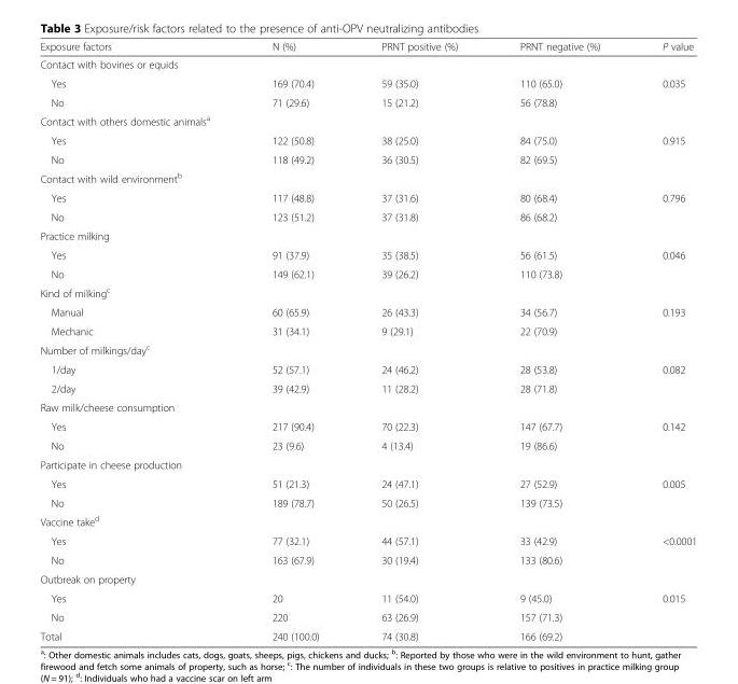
<table><thead><tr><td>Exposure factors</td><td>N (%)</td><td>PRNT positive (%)</td><td>PRNT negative (%)</td><td>P value</td></tr></thead><tbody><tr><td colspan="5">Contact with bovines or equids</td></tr><tr><td>Yes</td><td>169 (70.4)</td><td>59 (35.0)</td><td>110 (65.0)</td><td>0.035</td></tr><tr><td>No</td><td>71 (29.6)</td><td>15 (21.2)</td><td>56 (78.8)</td><td></td></tr><tr><td colspan="5">Contact with others domestic animals<sup>a</sup></td></tr><tr><td>Yes</td><td>122 (50.8)</td><td>38 (25.0)</td><td>84 (75.0)</td><td>0.915</td></tr><tr><td>No</td><td>118 (49.2)</td><td>36 (30.5)</td><td>82 (69.5)</td><td></td></tr><tr><td colspan="5">Contact with wild environment<sup>b</sup></td></tr><tr><td>Yes</td><td>117 (48.8)</td><td>37 (31.6)</td><td>80 (68.4)</td><td>0.796</td></tr><tr><td>No</td><td>123 (51.2)</td><td>37 (31.8)</td><td>86 (68.2)</td><td></td></tr><tr><td colspan="5">Practice milking</td></tr><tr><td>Yes</td><td>91 (37.9)</td><td>35 (38.5)</td><td>56 (61.5)</td><td>0.046</td></tr><tr><td>No</td><td>149 (62.1)</td><td>39 (26.2)</td><td>110 (73.8)</td><td></td></tr><tr><td colspan="5">Kind of milking<sup>c</sup></td></tr><tr><td>Manual</td><td>60 (65.9)</td><td>26 (43.3)</td><td>34 (56.7)</td><td>0.193</td></tr><tr><td>Mechanic</td><td>31 (34.1)</td><td>9 (29.1)</td><td>22 (70.9)</td><td></td></tr><tr><td colspan="5">Number of milkings/day<sup>c</sup></td></tr><tr><td>1/day</td><td>52 (57.1)</td><td>24 (46.2)</td><td>28 (53.8)</td><td>0.082</td></tr><tr><td>2/day</td><td>39 (42.9)</td><td>11 (28.2)</td><td>28 (71.8)</td><td></td></tr><tr><td colspan="5">Raw milk/cheese consumption</td></tr><tr><td>Yes</td><td>217 (90.4)</td><td>70 (22.3)</td><td>147 (67.7)</td><td>0.142</td></tr><tr><td>No</td><td>23 (9.6)</td><td>4 (13.4)</td><td>19 (86.6)</td><td></td></tr><tr><td colspan="5">Participate in cheese production</td></tr><tr><td>Yes</td><td>51 (21.3)</td><td>24 (47.1)</td><td>27 (52.9)</td><td>0.005</td></tr><tr><td>No</td><td>189 (78.7)</td><td>50 (26.5)</td><td>139 (73.5)</td><td></td></tr><tr><td colspan="5">Vaccine take<sup>d</sup></td></tr><tr><td>Yes</td><td>77 (32.1)</td><td>44 (57.1)</td><td>33 (42.9)</td><td>&lt;0.0001</td></tr><tr><td>No</td><td>163 (67.9)</td><td>30 (19.4)</td><td>133 (80.6)</td><td></td></tr><tr><td colspan="5">Outbreak on property</td></tr><tr><td>Yes</td><td>20</td><td>11 (54.0)</td><td>9 (45.0)</td><td>0.015</td></tr><tr><td>No</td><td>220</td><td>63 (26.9)</td><td>157 (71.3)</td><td></td></tr><tr><td>Total</td><td>240 (100.0)</td><td>74 (30.8)</td><td>166 (69.2)</td><td></td></tr></tbody></table>